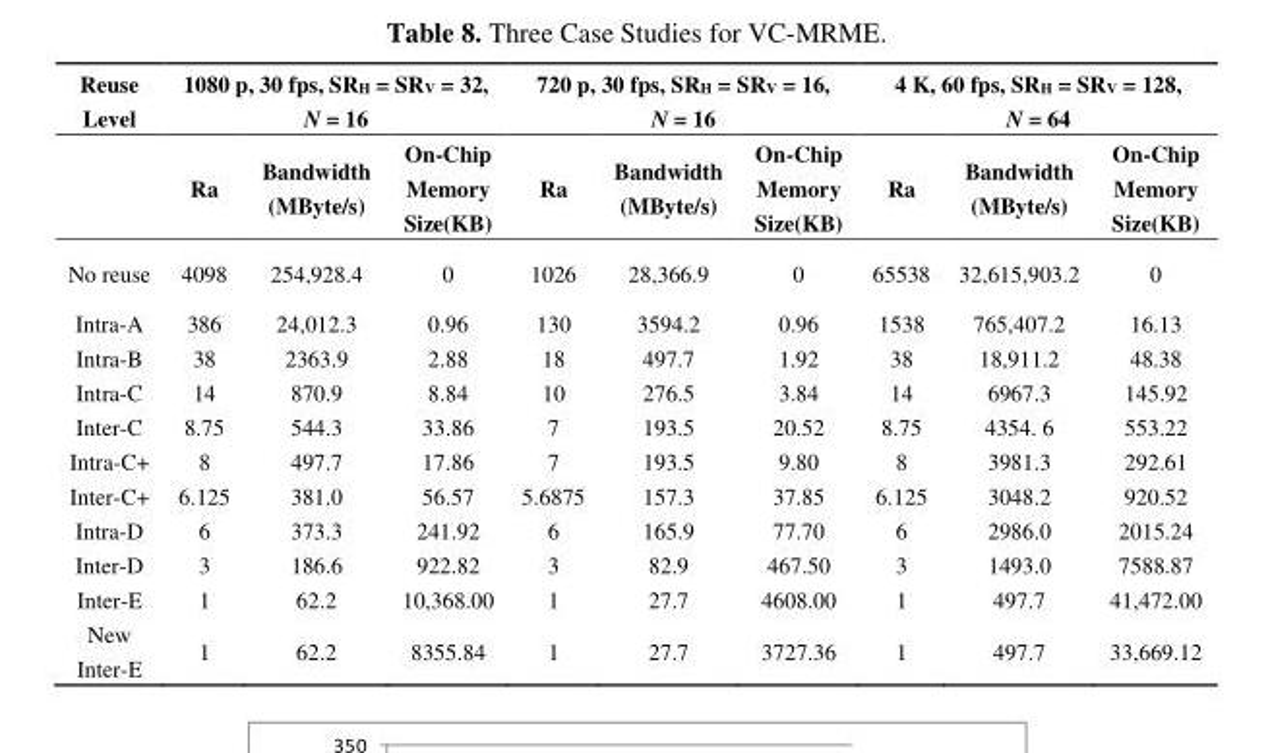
<table><thead><tr><td rowspan="2">Reuse Level</td><td colspan="3">1080 p, 30 fps, SR<sub>H</sub> = SR<sub>V</sub> = 32, N = 16</td><td colspan="3">720 p, 30 fps, SR<sub>H</sub> = SR<sub>V</sub> = 16, N = 16</td><td colspan="3">4 K, 60 fps, SR<sub>H</sub> = SR<sub>V</sub> = 128, N = 64</td></tr><tr><td>Ra</td><td>Bandwidth (MByte/s)</td><td>On-Chip Memory Size(KB)</td><td>Ra</td><td>Bandwidth (MByte/s)</td><td>On-Chip Memory Size(KB)</td><td>Ra</td><td>Bandwidth (MByte/s)</td><td>On-Chip Memory Size(KB)</td></tr></thead><tbody><tr><td>No reuse</td><td>4098</td><td>254,928.4</td><td>0</td><td>1026</td><td>28,366.9</td><td>0</td><td>65538</td><td>32,615,903.2</td><td>0</td></tr><tr><td>Intra-A</td><td>386</td><td>24,012.3</td><td>0.96</td><td>130</td><td>3594.2</td><td>0.96</td><td>1538</td><td>765,407.2</td><td>16.13</td></tr><tr><td>Intra-B</td><td>38</td><td>2363.9</td><td>2.88</td><td>18</td><td>497.7</td><td>1.92</td><td>38</td><td>18,911.2</td><td>48.38</td></tr><tr><td>Intra-C</td><td>14</td><td>870.9</td><td>8.84</td><td>10</td><td>276.5</td><td>3.84</td><td>14</td><td>6967.3</td><td>145.92</td></tr><tr><td>Inter-C</td><td>8.75</td><td>544.3</td><td>33.86</td><td>7</td><td>193.5</td><td>20.52</td><td>8.75</td><td>4354. 6</td><td>553.22</td></tr><tr><td>Intra-C+</td><td>8</td><td>497.7</td><td>17.86</td><td>7</td><td>193.5</td><td>9.80</td><td>8</td><td>3981.3</td><td>292.61</td></tr><tr><td>Inter-C+</td><td>6.125</td><td>381.0</td><td>56.57</td><td>5.6875</td><td>157.3</td><td>37.85</td><td>6.125</td><td>3048.2</td><td>920.52</td></tr><tr><td>Intra-D</td><td>6</td><td>373.3</td><td>241.92</td><td>6</td><td>165.9</td><td>77.70</td><td>6</td><td>2986.0</td><td>2015.24</td></tr><tr><td>Inter-D</td><td>3</td><td>186.6</td><td>922.82</td><td>3</td><td>82.9</td><td>467.50</td><td>3</td><td>1493.0</td><td>7588.87</td></tr><tr><td>Inter-E</td><td>1</td><td>62.2</td><td>10,368.00</td><td>1</td><td>27.7</td><td>4608.00</td><td>1</td><td>497.7</td><td>41,472.00</td></tr><tr><td>New Inter-E</td><td>1</td><td>62.2</td><td>8355.84</td><td>1</td><td>27.7</td><td>3727.36</td><td>1</td><td>497.7</td><td>33,669.12</td></tr></tbody></table>